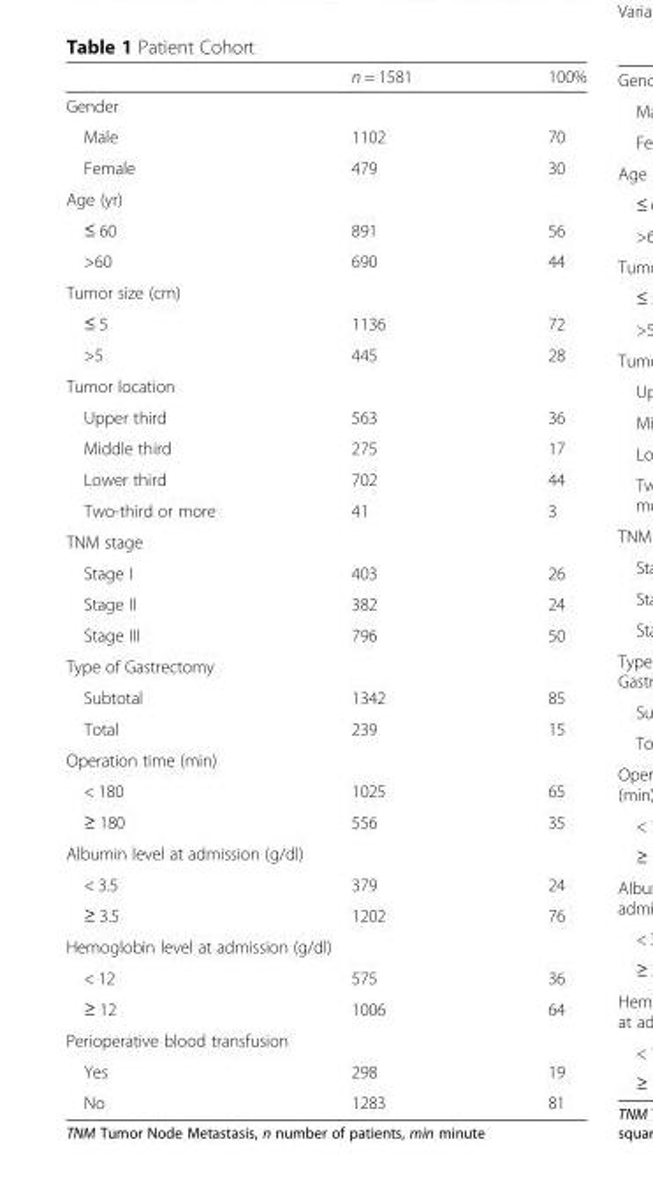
<table><thead><tr><td></td><td>n = 1581</td><td>100%</td></tr></thead><tbody><tr><td colspan="3">Gender</td></tr><tr><td>Male</td><td>1102</td><td>70</td></tr><tr><td>Female</td><td>479</td><td>30</td></tr><tr><td colspan="3">Age (yr)</td></tr><tr><td>≤ 60</td><td>891</td><td>56</td></tr><tr><td>&gt;60</td><td>690</td><td>44</td></tr><tr><td colspan="3">Tumor size (cm)</td></tr><tr><td>≤ 5</td><td>1136</td><td>72</td></tr><tr><td>&gt;5</td><td>445</td><td>28</td></tr><tr><td colspan="3">Tumor location</td></tr><tr><td>Upper third</td><td>563</td><td>36</td></tr><tr><td>Middle third</td><td>275</td><td>17</td></tr><tr><td>Lower third</td><td>702</td><td>44</td></tr><tr><td>Two-third or more</td><td>41</td><td>3</td></tr><tr><td colspan="3">TNM stage</td></tr><tr><td>Stage I</td><td>403</td><td>26</td></tr><tr><td>Stage II</td><td>382</td><td>24</td></tr><tr><td>Stage III</td><td>796</td><td>50</td></tr><tr><td colspan="3">Type of Gastrectomy</td></tr><tr><td>Subtotal</td><td>1342</td><td>85</td></tr><tr><td>Total</td><td>239</td><td>15</td></tr><tr><td colspan="3">Operation time (min)</td></tr><tr><td>&lt; 180</td><td>1025</td><td>65</td></tr><tr><td>≥ 180</td><td>556</td><td>35</td></tr><tr><td colspan="3">Albumin level at admission (g/dl)</td></tr><tr><td>&lt; 3.5</td><td>379</td><td>24</td></tr><tr><td>≥ 3.5</td><td>1202</td><td>76</td></tr><tr><td colspan="3">Hemoglobin level at admission (g/dl)</td></tr><tr><td>&lt; 12</td><td>575</td><td>36</td></tr><tr><td>≥ 12</td><td>1006</td><td>64</td></tr><tr><td colspan="3">Perioperative blood transfusion</td></tr><tr><td>Yes</td><td>298</td><td>19</td></tr><tr><td>No</td><td>1283</td><td>81</td></tr></tbody></table>